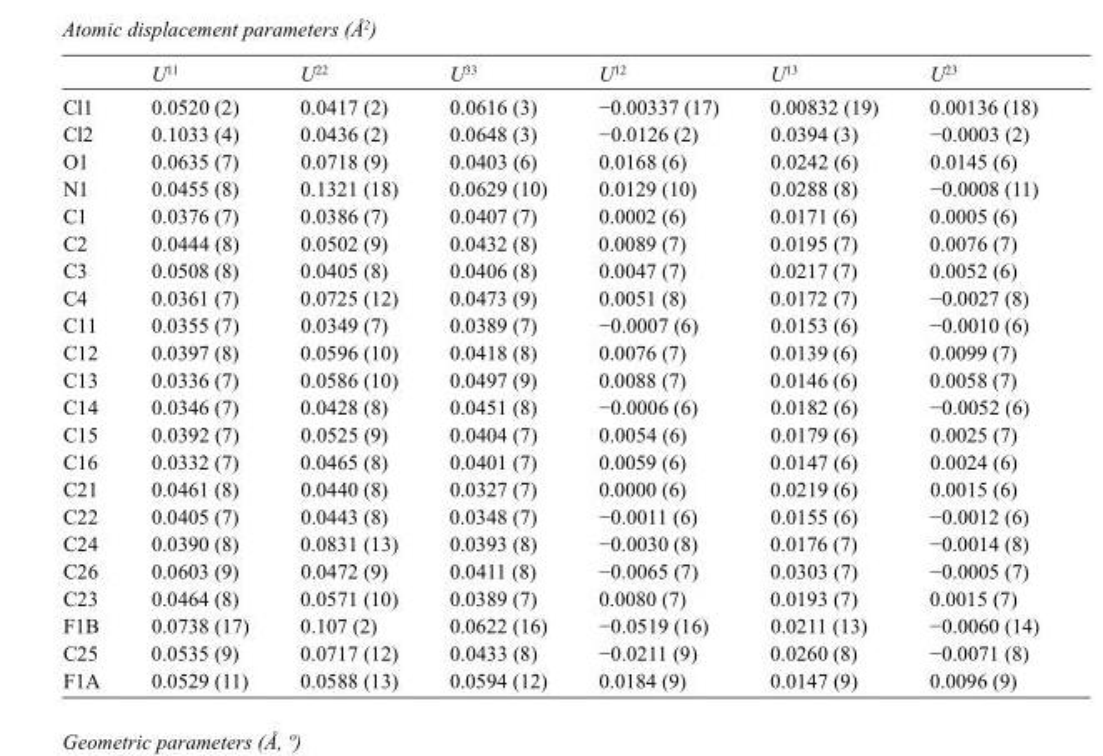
<table><thead><tr><td></td><td>U<sup>11</sup></td><td>U<sup>22</sup></td><td>U<sup>33</sup></td><td>U<sup>12</sup></td><td>U<sup>13</sup></td><td>U<sup>23</sup></td></tr></thead><tbody><tr><td>Cl1</td><td>0.0520 (2)</td><td>0.0417 (2)</td><td>0.0616 (3)</td><td>−0.00337 (17)</td><td>0.00832 (19)</td><td>0.00136 (18)</td></tr><tr><td>Cl2</td><td>0.1033 (4)</td><td>0.0436 (2)</td><td>0.0648 (3)</td><td>−0.0126 (2)</td><td>0.0394 (3)</td><td>−0.0003 (2)</td></tr><tr><td>O1</td><td>0.0635 (7)</td><td>0.0718 (9)</td><td>0.0403 (6)</td><td>0.0168 (6)</td><td>0.0242 (6)</td><td>0.0145 (6)</td></tr><tr><td>N1</td><td>0.0455 (8)</td><td>0.1321 (18)</td><td>0.0629 (10)</td><td>0.0129 (10)</td><td>0.0288 (8)</td><td>−0.0008 (11)</td></tr><tr><td>C1</td><td>0.0376 (7)</td><td>0.0386 (7)</td><td>0.0407 (7)</td><td>0.0002 (6)</td><td>0.0171 (6)</td><td>0.0005 (6)</td></tr><tr><td>C2</td><td>0.0444 (8)</td><td>0.0502 (9)</td><td>0.0432 (8)</td><td>0.0089 (7)</td><td>0.0195 (7)</td><td>0.0076 (7)</td></tr><tr><td>C3</td><td>0.0508 (8)</td><td>0.0405 (8)</td><td>0.0406 (8)</td><td>0.0047 (7)</td><td>0.0217 (7)</td><td>0.0052 (6)</td></tr><tr><td>C4</td><td>0.0361 (7)</td><td>0.0725 (12)</td><td>0.0473 (9)</td><td>0.0051 (8)</td><td>0.0172 (7)</td><td>−0.0027 (8)</td></tr><tr><td>C11</td><td>0.0355 (7)</td><td>0.0349 (7)</td><td>0.0389 (7)</td><td>−0.0007 (6)</td><td>0.0153 (6)</td><td>−0.0010 (6)</td></tr><tr><td>C12</td><td>0.0397 (8)</td><td>0.0596 (10)</td><td>0.0418 (8)</td><td>0.0076 (7)</td><td>0.0139 (6)</td><td>0.0099 (7)</td></tr><tr><td>C13</td><td>0.0336 (7)</td><td>0.0586 (10)</td><td>0.0497 (9)</td><td>0.0088 (7)</td><td>0.0146 (6)</td><td>0.0058 (7)</td></tr><tr><td>C14</td><td>0.0346 (7)</td><td>0.0428 (8)</td><td>0.0451 (8)</td><td>−0.0006 (6)</td><td>0.0182 (6)</td><td>−0.0052 (6)</td></tr><tr><td>C15</td><td>0.0392 (7)</td><td>0.0525 (9)</td><td>0.0404 (7)</td><td>0.0054 (6)</td><td>0.0179 (6)</td><td>0.0025 (7)</td></tr><tr><td>C16</td><td>0.0332 (7)</td><td>0.0465 (8)</td><td>0.0401 (7)</td><td>0.0059 (6)</td><td>0.0147 (6)</td><td>0.0024 (6)</td></tr><tr><td>C21</td><td>0.0461 (8)</td><td>0.0440 (8)</td><td>0.0327 (7)</td><td>0.0000 (6)</td><td>0.0219 (6)</td><td>0.0015 (6)</td></tr><tr><td>C22</td><td>0.0405 (7)</td><td>0.0443 (8)</td><td>0.0348 (7)</td><td>−0.0011 (6)</td><td>0.0155 (6)</td><td>−0.0012 (6)</td></tr><tr><td>C24</td><td>0.0390 (8)</td><td>0.0831 (13)</td><td>0.0393 (8)</td><td>−0.0030 (8)</td><td>0.0176 (7)</td><td>−0.0014 (8)</td></tr><tr><td>C26</td><td>0.0603 (9)</td><td>0.0472 (9)</td><td>0.0411 (8)</td><td>−0.0065 (7)</td><td>0.0303 (7)</td><td>−0.0005 (7)</td></tr><tr><td>C23</td><td>0.0464 (8)</td><td>0.0571 (10)</td><td>0.0389 (7)</td><td>0.0080 (7)</td><td>0.0193 (7)</td><td>0.0015 (7)</td></tr><tr><td>F1B</td><td>0.0738 (17)</td><td>0.107 (2)</td><td>0.0622 (16)</td><td>−0.0519 (16)</td><td>0.0211 (13)</td><td>−0.0060 (14)</td></tr><tr><td>C25</td><td>0.0535 (9)</td><td>0.0717 (12)</td><td>0.0433 (8)</td><td>−0.0211 (9)</td><td>0.0260 (8)</td><td>−0.0071 (8)</td></tr><tr><td>F1A</td><td>0.0529 (11)</td><td>0.0588 (13)</td><td>0.0594 (12)</td><td>0.0184 (9)</td><td>0.0147 (9)</td><td>0.0096 (9)</td></tr></tbody></table>